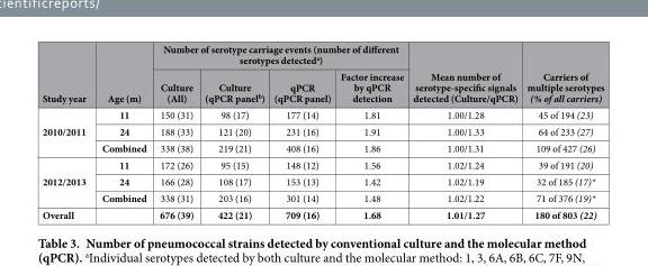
<table><thead><tr><td rowspan="2">Study year</td><td rowspan="2">Age (m)</td><td colspan="4">Number of serotype carriage events (number of different serotypes detected<sup>a</sup>)</td><td rowspan="2">Mean number of serotype-specific signals detected (Culture/qPCR)</td><td rowspan="2">Carriers of multiple serotypes (% of all carriers)</td></tr><tr><td>Culture (All)</td><td>Culture (qPCR panel<sup>b</sup>)</td><td>qPCR (qPCR panel)</td><td>Factor increase by qPCR detection</td></tr></thead><tbody><tr><td rowspan="3">2010/2011</td><td>11</td><td>150 (31)</td><td>98 (17)</td><td>177 (14)</td><td>1.81</td><td>1.00/1.28</td><td>45 of 194 (23)</td></tr><tr><td>24</td><td>188 (33)</td><td>121 (20)</td><td>231 (16)</td><td>1.91</td><td>1.00/1.33</td><td>64 of 233 (27)</td></tr><tr><td>Combined</td><td>338 (38)</td><td>219 (21)</td><td>408 (16)</td><td>1.86</td><td>1.00/1.31</td><td>109 of 427 (26)</td></tr><tr><td rowspan="3">2012/2013</td><td>11</td><td>172 (26)</td><td>95 (15)</td><td>148 (12)</td><td>1.56</td><td>1.02/1.24</td><td>39 of 191 (20)</td></tr><tr><td>24</td><td>166 (28)</td><td>108 (17)</td><td>153 (13)</td><td>1.42</td><td>1.02/1.19</td><td>32 of 185 (17)*</td></tr><tr><td>Combined</td><td>338 (31)</td><td>203 (16)</td><td>301 (14)</td><td>1.48</td><td>1.02/1.22</td><td>71 of 376 (19)*</td></tr><tr><td>Overall</td><td></td><td>676 (39)</td><td>422 (21)</td><td>709 (16)</td><td>1.68</td><td>1.01/1.27</td><td>180 of 803 (22)</td></tr></tbody></table>